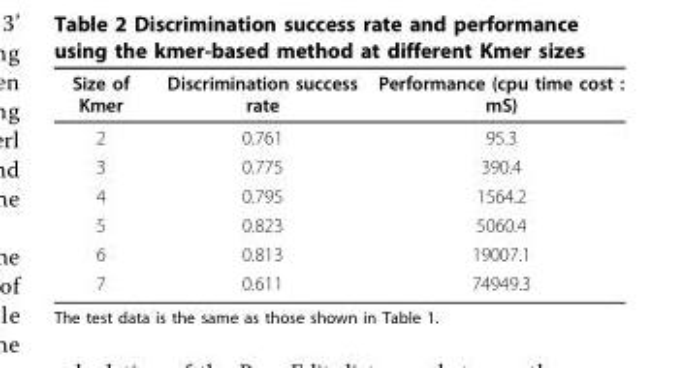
<table><thead><tr><td>Size of Kmer</td><td>Discrimination success rate</td><td>Performance (cpu time cost : mS)</td></tr></thead><tbody><tr><td>2</td><td>0.761</td><td>95.3</td></tr><tr><td>3</td><td>0.775</td><td>390.4</td></tr><tr><td>4</td><td>0.795</td><td>1564.2</td></tr><tr><td>5</td><td>0.823</td><td>5060.4</td></tr><tr><td>6</td><td>0.813</td><td>19007.1</td></tr><tr><td>7</td><td>0.611</td><td>74949.3</td></tr></tbody></table>